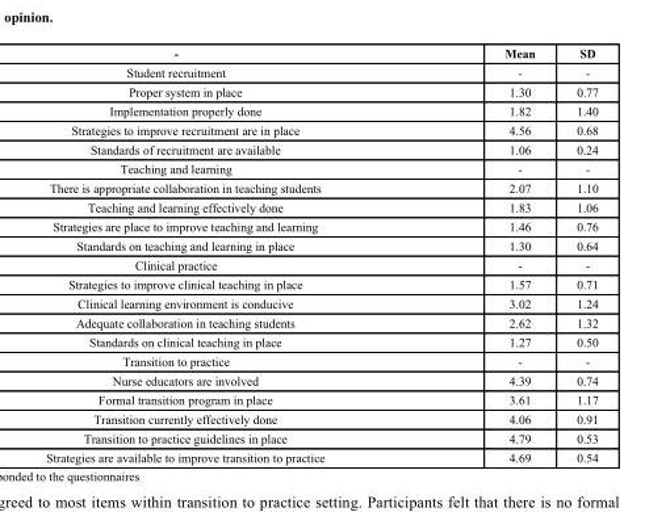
<table><thead><tr><td>-</td><td>Mean</td><td>SD</td></tr></thead><tbody><tr><td>Student recruitment</td><td>-</td><td>-</td></tr><tr><td>Proper system in place</td><td>1.30</td><td>0.77</td></tr><tr><td>Implementation properly done</td><td>1.82</td><td>1.40</td></tr><tr><td>Strategies to improve recruitment are in place</td><td>4.56</td><td>0.68</td></tr><tr><td>Standards of recruitment are available</td><td>1.06</td><td>0.24</td></tr><tr><td>Teaching and learning</td><td>-</td><td>-</td></tr><tr><td>There is appropriate collaboration in teaching students</td><td>2.07</td><td>1.10</td></tr><tr><td>Teaching and learning effectively done</td><td>1.83</td><td>1.06</td></tr><tr><td>Strategies are place to improve teaching and learning</td><td>1.46</td><td>0.76</td></tr><tr><td>Standards on teaching and learning in place</td><td>1.30</td><td>0.64</td></tr><tr><td>Clinical practice</td><td>-</td><td>-</td></tr><tr><td>Strategies to improve clinical teaching in place</td><td>1.57</td><td>0.71</td></tr><tr><td>Clinical learning environment is conducive</td><td>3.02</td><td>1.24</td></tr><tr><td>Adequate collaboration in teaching students</td><td>2.62</td><td>1.32</td></tr><tr><td>Standards on clinical teaching in place</td><td>1.27</td><td>0.50</td></tr><tr><td>Transition to practice</td><td>-</td><td>-</td></tr><tr><td>Nurse educators are involved</td><td>4.39</td><td>0.74</td></tr><tr><td>Formal transition program in place</td><td>3.61</td><td>1.17</td></tr><tr><td>Transition currently effectively done</td><td>4.06</td><td>0.91</td></tr><tr><td>Transition to practice guidelines in place</td><td>4.79</td><td>0.53</td></tr><tr><td>Strategies are available to improve transition to practice</td><td>4.69</td><td>0.54</td></tr></tbody></table>